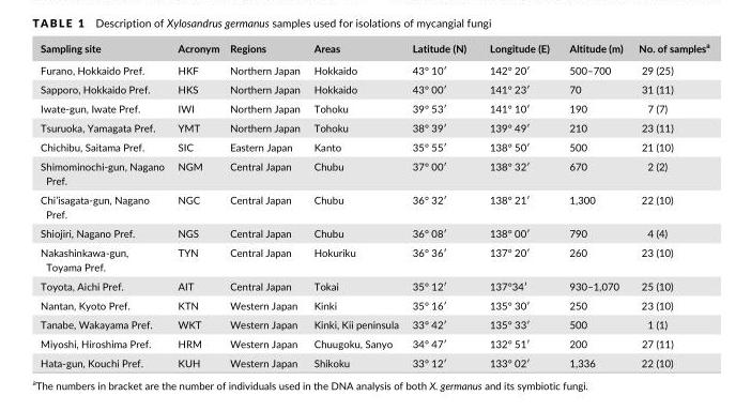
<table><thead><tr><td>Sampling site</td><td>Acronym</td><td>Regions</td><td>Areas</td><td>Latitude (N)</td><td>Longitude (E)</td><td>Altitude (m)</td><td>No. of samples<sup>a</sup></td></tr></thead><tbody><tr><td>Furano, Hokkaido Pref.</td><td>HKF</td><td>Northern Japan</td><td>Hokkaido</td><td>43° 10′</td><td>142° 20′</td><td>500–700</td><td>29 (25)</td></tr><tr><td>Sapporo, Hokkaido Pref.</td><td>HKS</td><td>Northern Japan</td><td>Hokkaido</td><td>43° 00′</td><td>141° 23′</td><td>70</td><td>31 (11)</td></tr><tr><td>Iwate- gun, Iwate Pref.</td><td>IWI</td><td>Northern Japan</td><td>Tohoku</td><td>39° 53′</td><td>141° 10′</td><td>190</td><td>7 (7)</td></tr><tr><td>Tsuruoka, Yamagata Pref.</td><td>YMT</td><td>Northern Japan</td><td>Tohoku</td><td>38° 39′</td><td>139° 49′</td><td>210</td><td>23 (11)</td></tr><tr><td>Chichibu, Saitama Pref.</td><td>SIC</td><td>Eastern Japan</td><td>Kanto</td><td>35° 55′</td><td>138° 50′</td><td>500</td><td>21 (10)</td></tr><tr><td>Shimominochi- gun, Nagano Pref.</td><td>NGM</td><td>Central Japan</td><td>Chubu</td><td>37° 00′</td><td>138° 32′</td><td>670</td><td>2 (2)</td></tr><tr><td>Chi’isagata- gun, Nagano Pref.</td><td>NGC</td><td>Central Japan</td><td>Chubu</td><td>36° 32′</td><td>138° 21′</td><td>1,300</td><td>22 (10)</td></tr><tr><td>Shiojiri, Nagano Pref.</td><td>NGS</td><td>Central Japan</td><td>Chubu</td><td>36° 08′</td><td>138° 00′</td><td>790</td><td>4 (4)</td></tr><tr><td>Nakashinkawa- gun, Toyama Pref.</td><td>TYN</td><td>Central Japan</td><td>Hokuriku</td><td>36° 36′</td><td>137° 20′</td><td>260</td><td>23 (10)</td></tr><tr><td>Toyota, Aichi Pref.</td><td>AIT</td><td>Central Japan</td><td>Tokai</td><td>35° 12′</td><td>137°34′</td><td>930–1,070</td><td>25 (10)</td></tr><tr><td>Nantan, Kyoto Pref.</td><td>KTN</td><td>Western Japan</td><td>Kinki</td><td>35° 16′</td><td>135° 30′</td><td>250</td><td>23 (10)</td></tr><tr><td>Tanabe, Wakayama Pref.</td><td>WKT</td><td>Western Japan</td><td>Kinki, Kii peninsula</td><td>33° 42′</td><td>135° 33′</td><td>500</td><td>1 (1)</td></tr><tr><td>Miyoshi, Hiroshima Pref.</td><td>HRM</td><td>Western Japan</td><td>Chuugoku, Sanyo</td><td>34° 47′</td><td>132° 51′</td><td>200</td><td>27 (11)</td></tr><tr><td>Hata- gun, Kouchi Pref.</td><td>KUH</td><td>Western Japan</td><td>Shikoku</td><td>33° 12′</td><td>133° 02′</td><td>1,336</td><td>22 (10)</td></tr></tbody></table>